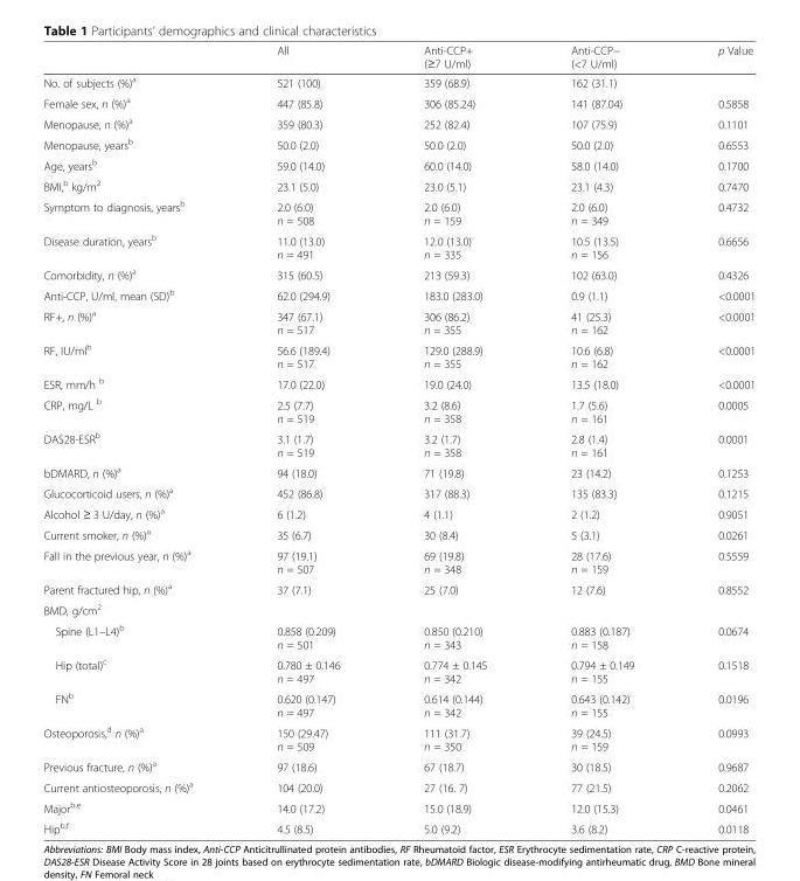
<table><thead><tr><td></td><td>All</td><td>Anti-CCP+ (≥7 U/ml)</td><td>Anti-CCP− (&lt;7 U/ml)</td><td>p Value</td></tr></thead><tbody><tr><td>No. of subjects (%)<sup>a</sup></td><td>521 (100)</td><td>359 (68.9)</td><td>162 (31.1)</td><td></td></tr><tr><td>Female sex, n (%)<sup>a</sup></td><td>447 (85.8)</td><td>306 (85.24)</td><td>141 (87.04)</td><td>0.5858</td></tr><tr><td>Menopause, n (%)<sup>a</sup></td><td>359 (80.3)</td><td>252 (82.4)</td><td>107 (75.9)</td><td>0.1101</td></tr><tr><td>Menopause, years<sup>b</sup></td><td>50.0 (2.0)</td><td>50.0 (2.0)</td><td>50.0 (2.0)</td><td>0.6553</td></tr><tr><td>Age, years<sup>b</sup></td><td>59.0 (14.0)</td><td>60.0 (14.0)</td><td>58.0 (14.0)</td><td>0.1700</td></tr><tr><td>BMI,<sup>b</sup> kg/m<sup>2</sup></td><td>23.1 (5.0)</td><td>23.0 (5.1)</td><td>23.1 (4.3)</td><td>0.7470</td></tr><tr><td>Symptom to diagnosis, years<sup>b</sup></td><td>2.0 (6.0) n = 508</td><td>2.0 (6.0) n = 159</td><td>2.0 (6.0) n = 349</td><td>0.4732</td></tr><tr><td>Disease duration, years<sup>b</sup></td><td>11.0 (13.0) n = 491</td><td>12.0 (13.0) n = 335</td><td>10.5 (13.5) n = 156</td><td>0.6656</td></tr><tr><td>Comorbidity, n (%)<sup>a</sup></td><td>315 (60.5)</td><td>213 (59.3)</td><td>102 (63.0)</td><td>0.4326</td></tr><tr><td>Anti-CCP, U/ml, mean (SD)<sup>b</sup></td><td>62.0 (294.9)</td><td>183.0 (283.0)</td><td>0.9 (1.1)</td><td>&lt;0.0001</td></tr><tr><td>RF+, n (%)<sup>a</sup></td><td>347 (67.1) n = 517</td><td>306 (86.2) n = 355</td><td>41 (25.3) n = 162</td><td>&lt;0.0001</td></tr><tr><td>RF, IU/ml<sup>b</sup></td><td>56.6 (189.4) n = 517</td><td>129.0 (288.9) n = 355</td><td>10.6 (6.8) n = 162</td><td>&lt;0.0001</td></tr><tr><td>ESR, mm/h <sup>b</sup></td><td>17.0 (22.0)</td><td>19.0 (24.0)</td><td>13.5 (18.0)</td><td>&lt;0.0001</td></tr><tr><td>CRP, mg/L <sup>b</sup></td><td>2.5 (7.7) n = 519</td><td>3.2 (8.6) n = 358</td><td>1.7 (5.6) n = 161</td><td>0.0005</td></tr><tr><td>DAS28-ESR<sup>b</sup></td><td>3.1 (1.7) n = 519</td><td>3.2 (1.7) n = 358</td><td>2.8 (1.4) n = 161</td><td>0.0001</td></tr><tr><td>bDMARD, n (%)<sup>a</sup></td><td>94 (18.0)</td><td>71 (19.8)</td><td>23 (14.2)</td><td>0.1253</td></tr><tr><td>Glucocorticoid users, n (%)<sup>a</sup></td><td>452 (86.8)</td><td>317 (88.3)</td><td>135 (83.3)</td><td>0.1215</td></tr><tr><td>Alcohol ≥ 3 U/day, n (%)<sup>a</sup></td><td>6 (1.2)</td><td>4 (1.1)</td><td>2 (1.2)</td><td>0.9051</td></tr><tr><td>Current smoker, n (%)<sup>a</sup></td><td>35 (6.7)</td><td>30 (8.4)</td><td>5 (3.1)</td><td>0.0261</td></tr><tr><td>Fall in the previous year, n (%)<sup>a</sup></td><td>97 (19.1) n = 507</td><td>69 (19.8) n = 348</td><td>28 (17.6) n = 159</td><td>0.5559</td></tr><tr><td>Parent fractured hip, n (%)<sup>a</sup></td><td>37 (7.1)</td><td>25 (7.0)</td><td>12 (7.6)</td><td>0.8552</td></tr><tr><td colspan="5">BMD, g/cm<sup>2</sup></td></tr><tr><td>Spine (L1–L4)<sup>b</sup></td><td>0.858 (0.209) n = 501</td><td>0.850 (0.210) n = 343</td><td>0.883 (0.187) n = 158</td><td>0.0674</td></tr><tr><td>Hip (total)<sup>c</sup></td><td>0.780 ± 0.146 n = 497</td><td>0.774 ± 0.145 n = 342</td><td>0.794 ± 0.149 n = 155</td><td>0.1518</td></tr><tr><td>FN<sup>b</sup></td><td>0.620 (0.147) n = 497</td><td>0.614 (0.144) n = 342</td><td>0.643 (0.142) n = 155</td><td>0.0196</td></tr><tr><td>Osteoporosis,<sup>d</sup> n (%)<sup>a</sup></td><td>150 (29.47) n = 509</td><td>111 (31.7) n = 350</td><td>39 (24.5) n = 159</td><td>0.0993</td></tr><tr><td>Previous fracture, n (%)<sup>a</sup></td><td>97 (18.6)</td><td>67 (18.7)</td><td>30 (18.5)</td><td>0.9687</td></tr><tr><td>Current antiosteoporosis, n (%)<sup>a</sup></td><td>104 (20.0)</td><td>27 (16. 7)</td><td>77 (21.5)</td><td>0.2062</td></tr><tr><td>Major<sup>b,e</sup></td><td>14.0 (17.2)</td><td>15.0 (18.9)</td><td>12.0 (15.3)</td><td>0.0461</td></tr><tr><td>Hip<sup>b,f</sup></td><td>4.5 (8.5)</td><td>5.0 (9.2)</td><td>3.6 (8.2)</td><td>0.0118</td></tr></tbody></table>